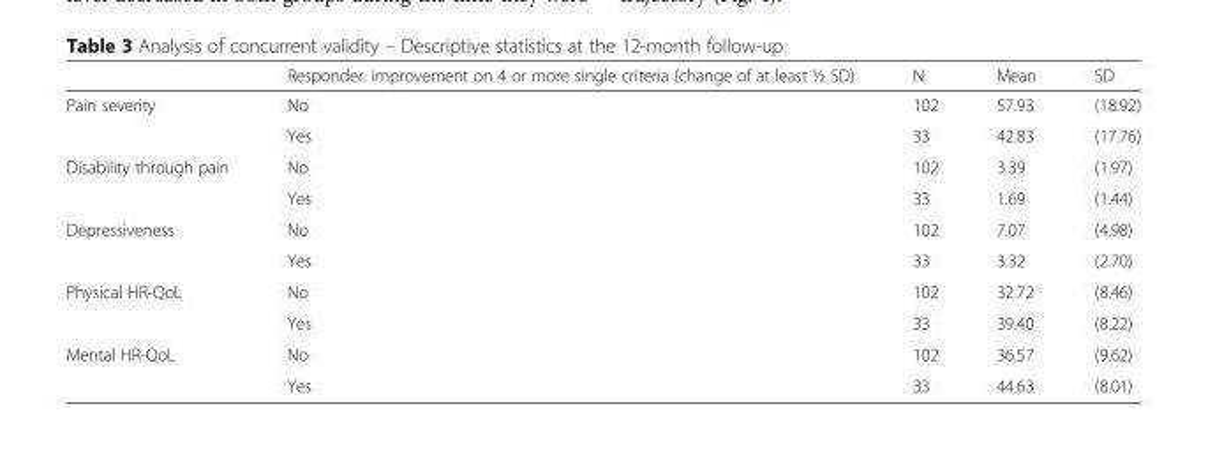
<table><thead><tr><td></td><td>Responder: improvement on 4 or more single criteria (change of at least ½ SD)</td><td>N</td><td>Mean</td><td>SD</td></tr></thead><tbody><tr><td rowspan="2">Pain severity</td><td>No</td><td>102</td><td>57.93</td><td>(18.92)</td></tr><tr><td>Yes</td><td>33</td><td>42.83</td><td>(17.76)</td></tr><tr><td rowspan="2">Disability through pain</td><td>No</td><td>102</td><td>3.39</td><td>(1.97)</td></tr><tr><td>Yes</td><td>33</td><td>1.69</td><td>(1.44)</td></tr><tr><td rowspan="2">Depressiveness</td><td>No</td><td>102</td><td>7.07</td><td>(4.98)</td></tr><tr><td>Yes</td><td>33</td><td>3.32</td><td>(2.70)</td></tr><tr><td rowspan="2">Physical HR-QoL</td><td>No</td><td>102</td><td>32.72</td><td>(8.46)</td></tr><tr><td>Yes</td><td>33</td><td>39.40</td><td>(8.22)</td></tr><tr><td rowspan="2">Mental HR-QoL</td><td>No</td><td>102</td><td>36.57</td><td>(9.62)</td></tr><tr><td>Yes</td><td>33</td><td>44.63</td><td>(8.01)</td></tr></tbody></table>